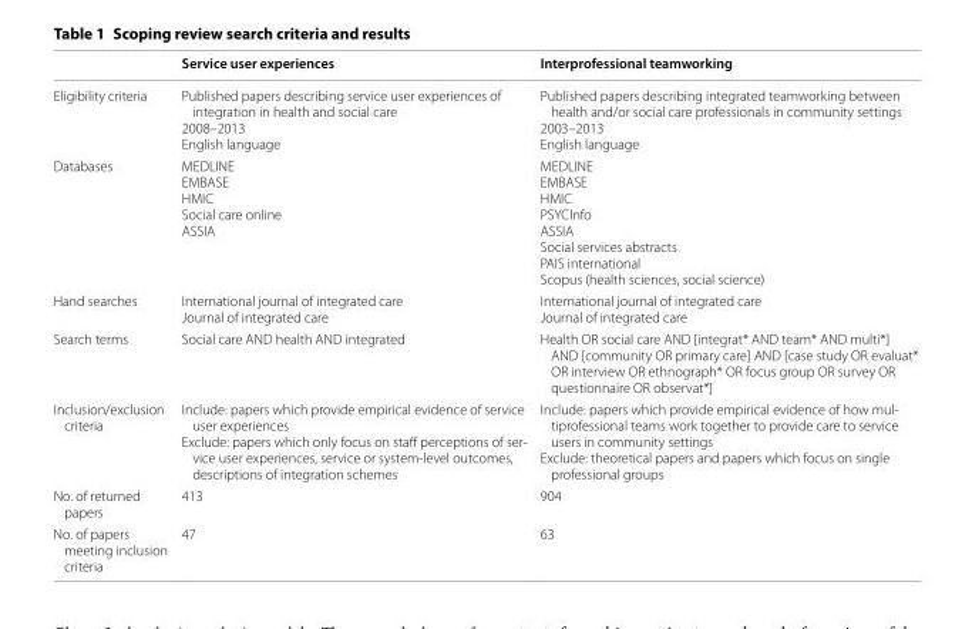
<table><thead><tr><td></td><td>Service user experiences</td><td>Interprofessional teamworking</td></tr></thead><tbody><tr><td>Eligibility criteria</td><td>Published papers describing service user experiences of integration in health and social care 2008–2013 English language</td><td>Published papers describing integrated teamworking between health and/or social care professionals in community settings 2003–2013 English language</td></tr><tr><td>Databases</td><td>MEDLINE EMBASE HMIC Social care online ASSIA</td><td>MEDLINE EMBASE HMIC PSYCInfo ASSIA Social services abstracts PAIS international Scopus (health sciences, social science)</td></tr><tr><td>Hand searches</td><td>International journal of integrated care Journal of integrated care</td><td>International journal of integrated care Journal of integrated care</td></tr><tr><td>Search terms</td><td>Social care AND health AND integrated</td><td>Health OR social care AND [integrat* AND team* AND multi*] AND [community OR primary care] AND [case study OR evaluat* OR interview OR ethnograph* OR focus group OR survey OR questionnaire OR observat*]</td></tr><tr><td>Inclusion/exclusion criteria</td><td>Include: papers which provide empirical evidence of service user experiences Exclude: papers which only focus on staff perceptions of ser- vice user experiences, service or system-level outcomes, descriptions of integration schemes</td><td>Include: papers which provide empirical evidence of how mul- tiprofessional teams work together to provide care to service users in community settings Exclude: theoretical papers and papers which focus on single professional groups</td></tr><tr><td>No. of returned papers</td><td>413</td><td>904</td></tr><tr><td>No. of papers meeting inclusion criteria</td><td>47</td><td>63</td></tr></tbody></table>